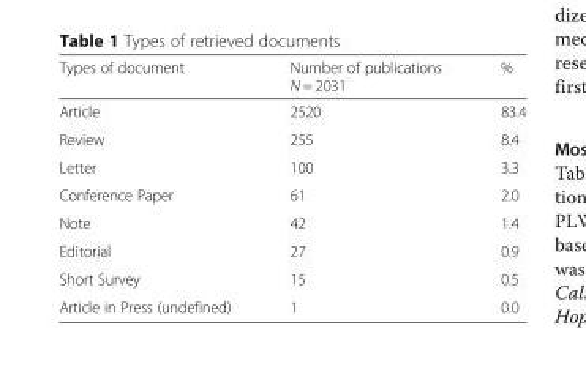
<table><thead><tr><td>Types of document</td><td>Number of publications N = 2031</td><td>%</td></tr></thead><tbody><tr><td>Article</td><td>2520</td><td>83.4</td></tr><tr><td>Review</td><td>255</td><td>8.4</td></tr><tr><td>Letter</td><td>100</td><td>3.3</td></tr><tr><td>Conference Paper</td><td>61</td><td>2.0</td></tr><tr><td>Note</td><td>42</td><td>1.4</td></tr><tr><td>Editorial</td><td>27</td><td>0.9</td></tr><tr><td>Short Survey</td><td>15</td><td>0.5</td></tr><tr><td>Article in Press (undefined)</td><td>1</td><td>0.0</td></tr></tbody></table>